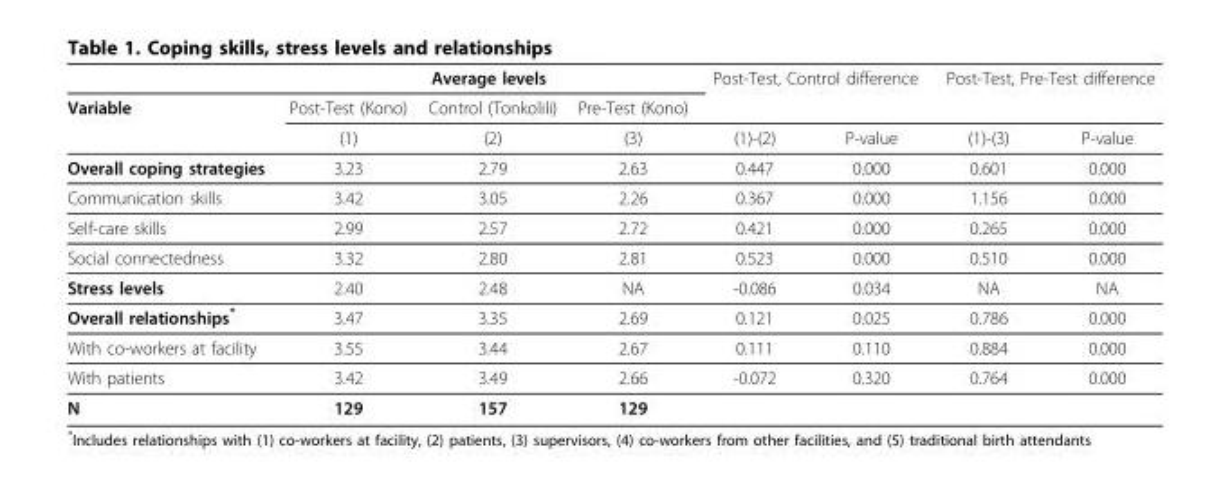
<table><thead><tr><td rowspan="3">Variable</td><td colspan="3">Average levels</td><td colspan="2">Post-Test, Control difference</td><td colspan="2">Post-Test, Pre-Test difference</td></tr><tr><td rowspan="2">Post-Test (Kono) (1)</td><td rowspan="2">Control (Tonkolili) (2)</td><td rowspan="2">Pre-Test (Kono) (3)</td><td rowspan="2">(1)-(2)</td><td rowspan="2">P-value</td><td rowspan="2">(1)-(3)</td><td rowspan="2">P-value</td></tr><tr></tr></thead><tbody><tr><td>Overall coping strategies</td><td>3.23</td><td>2.79</td><td>2.63</td><td>0.447</td><td>0.000</td><td>0.601</td><td>0.000</td></tr><tr><td>Communication skills</td><td>3.42</td><td>3.05</td><td>2.26</td><td>0.367</td><td>0.000</td><td>1.156</td><td>0.000</td></tr><tr><td>Self-care skills</td><td>2.99</td><td>2.57</td><td>2.72</td><td>0.421</td><td>0.000</td><td>0.265</td><td>0.000</td></tr><tr><td>Social connectedness</td><td>3.32</td><td>2.80</td><td>2.81</td><td>0.523</td><td>0.000</td><td>0.510</td><td>0.000</td></tr><tr><td>Stress levels</td><td>2.40</td><td>2.48</td><td>NA</td><td>-0.086</td><td>0.034</td><td>NA</td><td>NA</td></tr><tr><td>Overall relationships*</td><td>3.47</td><td>3.35</td><td>2.69</td><td>0.121</td><td>0.025</td><td>0.786</td><td>0.000</td></tr><tr><td>With co-workers at facility</td><td>3.55</td><td>3.44</td><td>2.67</td><td>0.111</td><td>0.110</td><td>0.884</td><td>0.000</td></tr><tr><td>With patients</td><td>3.42</td><td>3.49</td><td>2.66</td><td>-0.072</td><td>0.320</td><td>0.764</td><td>0.000</td></tr><tr><td>N</td><td>129</td><td>157</td><td>129</td><td></td><td></td><td></td><td></td></tr></tbody></table>